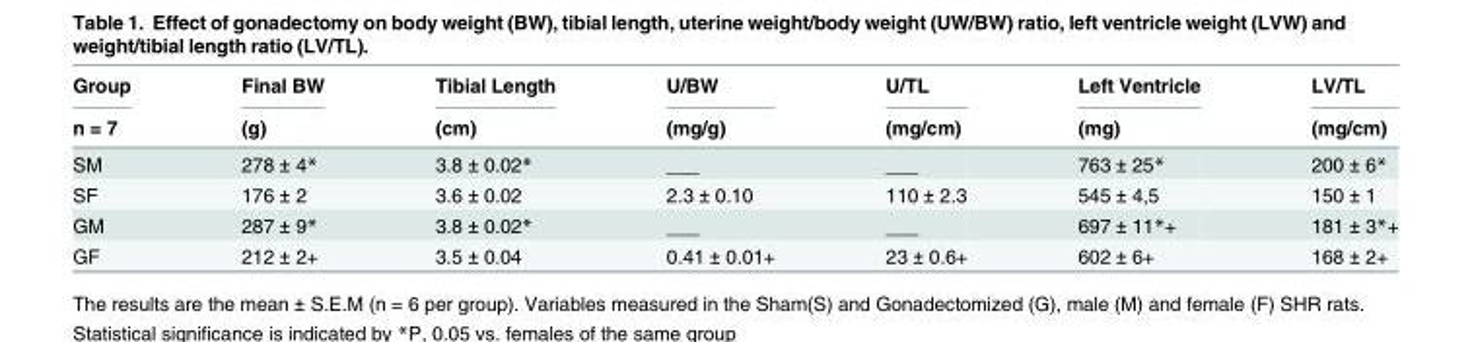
<table><thead><tr><td rowspan="2">Group n = 7</td><td rowspan="2">Final BW (g)</td><td rowspan="2">Tibial Length (cm)</td><td rowspan="2">U/BW (mg/g)</td><td rowspan="2">U/TL (mg/cm)</td><td rowspan="2">Left Ventricle (mg)</td><td rowspan="2">LV/TL (mg/cm)</td></tr><tr></tr></thead><tbody><tr><td>SM</td><td>278 ± 4*</td><td>3.8 ± 0.02*</td><td>___</td><td>___</td><td>763 ± 25*</td><td>200 ± 6*</td></tr><tr><td>SF</td><td>176 ± 2</td><td>3.6 ± 0.02</td><td>2.3 ± 0.10</td><td>110 ± 2.3</td><td>545 ± 4,5</td><td>150 ± 1</td></tr><tr><td>GM</td><td>287 ± 9*</td><td>3.8 ± 0.02*</td><td>___</td><td>___</td><td>697 ± 11*+</td><td>181 ± 3*+</td></tr><tr><td>GF</td><td>212 ± 2+</td><td>3.5 ± 0.04</td><td>0.41 ± 0.01+</td><td>23 ± 0.6+</td><td>602 ± 6+</td><td>168 ± 2+</td></tr></tbody></table>